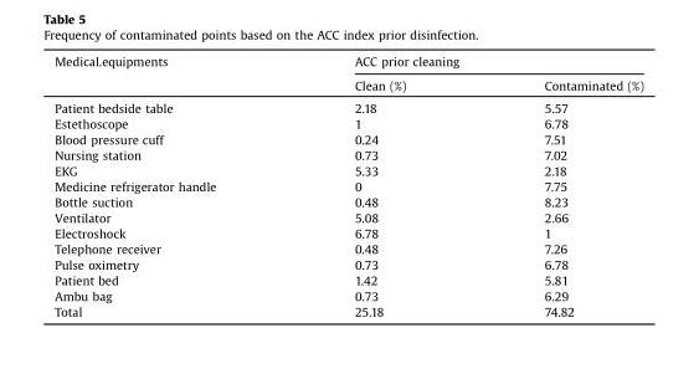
<table><thead><tr><td rowspan="2">Medical.equipments</td><td colspan="2">ACC prior cleaning</td></tr><tr><td>Clean (%)</td><td>Contaminated (%)</td></tr></thead><tbody><tr><td>Patient bedside table</td><td>2.18</td><td>5.57</td></tr><tr><td>Estethoscope</td><td>1</td><td>6.78</td></tr><tr><td>Blood pressure cuff</td><td>0.24</td><td>7.51</td></tr><tr><td>Nursing station</td><td>0.73</td><td>7.02</td></tr><tr><td>EKG</td><td>5.33</td><td>2.18</td></tr><tr><td>Medicine refrigerator handle</td><td>0</td><td>7.75</td></tr><tr><td>Bottle suction</td><td>0.48</td><td>8.23</td></tr><tr><td>Ventilator</td><td>5.08</td><td>2.66</td></tr><tr><td>Electroshock</td><td>6.78</td><td>1</td></tr><tr><td>Telephone receiver</td><td>0.48</td><td>7.26</td></tr><tr><td>Pulse oximetry</td><td>0.73</td><td>6.78</td></tr><tr><td>Patient bed</td><td>1.42</td><td>5.81</td></tr><tr><td>Ambu bag</td><td>0.73</td><td>6.29</td></tr><tr><td>Total</td><td>25.18</td><td>74.82</td></tr></tbody></table>